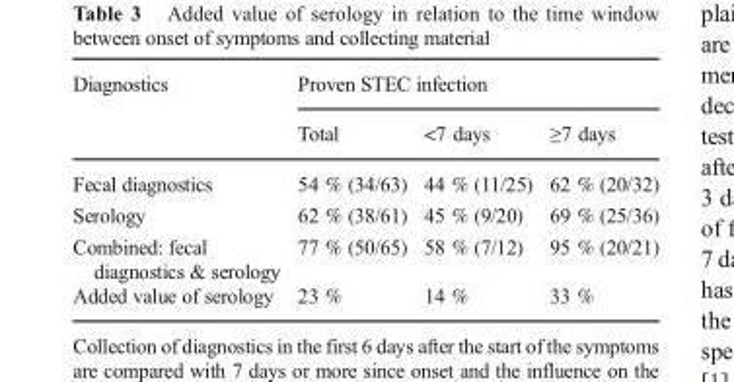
<table><thead><tr><td rowspan="2">Diagnostics</td><td colspan="3">Proven STEC infection</td></tr><tr><td>Total</td><td>&lt;7 days</td><td>≥7 days</td></tr></thead><tbody><tr><td>Fecal diagnostics</td><td>54 % (34/63)</td><td>44 % (11/25)</td><td>62 % (20/32)</td></tr><tr><td>Serology</td><td>62 % (38/61)</td><td>45 % (9/20)</td><td>69 % (25/36)</td></tr><tr><td>Combined: fecal diagnostics &amp; serology</td><td>77 % (50/65)</td><td>58 % (7/12)</td><td>95 % (20/21)</td></tr><tr><td>Added value of serology</td><td>23 %</td><td>14 %</td><td>33 %</td></tr></tbody></table>